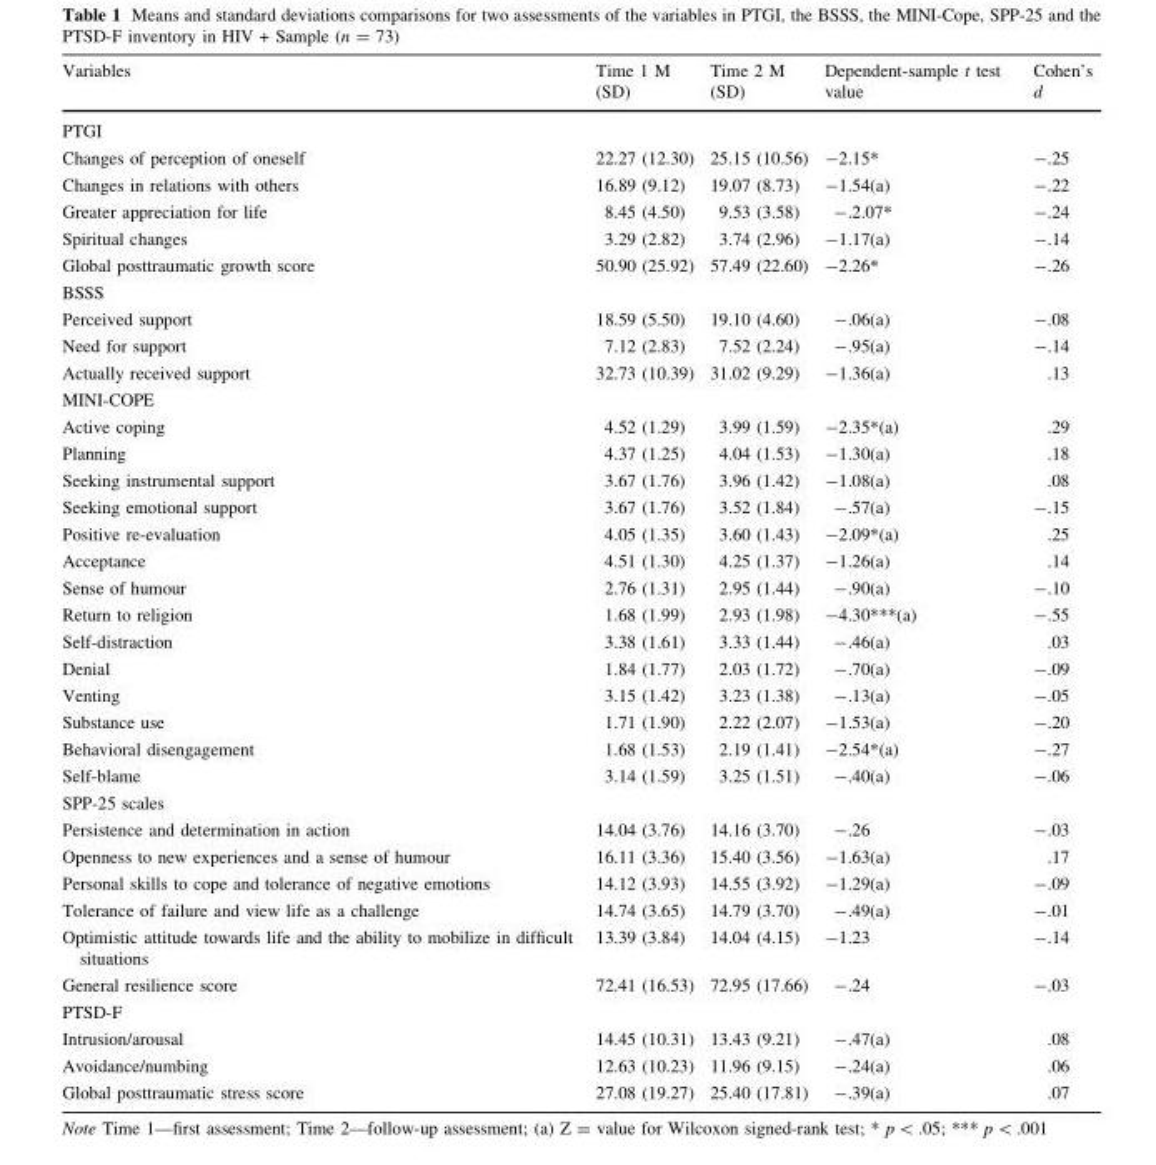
<table><thead><tr><td>Variables</td><td>Time 1 M (SD)</td><td>Time 2 M (SD)</td><td>Dependent-sample t test value</td><td>Cohen’s d</td></tr></thead><tbody><tr><td colspan="5">PTGI</td></tr><tr><td>Changes of perception of oneself</td><td>22.27 (12.30)</td><td>25.15 (10.56)</td><td>-2.15*</td><td>-.25</td></tr><tr><td>Changes in relations with others</td><td>16.89 (9.12)</td><td>19.07 (8.73)</td><td>-1.54(a)</td><td>-.22</td></tr><tr><td>Greater appreciation for life</td><td>8.45 (4.50)</td><td>9.53 (3.58)</td><td>-.2.07*</td><td>-.24</td></tr><tr><td>Spiritual changes</td><td>3.29 (2.82)</td><td>3.74 (2.96)</td><td>-1.17(a)</td><td>-.14</td></tr><tr><td>Global posttraumatic growth score</td><td>50.90 (25.92)</td><td>57.49 (22.60)</td><td>-2.26*</td><td>-.26</td></tr><tr><td colspan="5">BSSS</td></tr><tr><td>Perceived support</td><td>18.59 (5.50)</td><td>19.10 (4.60)</td><td>-.06(a)</td><td>-.08</td></tr><tr><td>Need for support</td><td>7.12 (2.83)</td><td>7.52 (2.24)</td><td>-.95(a)</td><td>-.14</td></tr><tr><td>Actually received support</td><td>32.73 (10.39)</td><td>31.02 (9.29)</td><td>-1.36(a)</td><td>.13</td></tr><tr><td colspan="5">MINI-COPE</td></tr><tr><td>Active coping</td><td>4.52 (1.29)</td><td>3.99 (1.59)</td><td>-2.35*(a)</td><td>.29</td></tr><tr><td>Planning</td><td>4.37 (1.25)</td><td>4.04 (1.53)</td><td>-1.30(a)</td><td>.18</td></tr><tr><td>Seeking instrumental support</td><td>3.67 (1.76)</td><td>3.96 (1.42)</td><td>-1.08(a)</td><td>.08</td></tr><tr><td>Seeking emotional support</td><td>3.67 (1.76)</td><td>3.52 (1.84)</td><td>-.57(a)</td><td>-.15</td></tr><tr><td>Positive re-evaluation</td><td>4.05 (1.35)</td><td>3.60 (1.43)</td><td>-2.09*(a)</td><td>.25</td></tr><tr><td>Acceptance</td><td>4.51 (1.30)</td><td>4.25 (1.37)</td><td>-1.26(a)</td><td>.14</td></tr><tr><td>Sense of humour</td><td>2.76 (1.31)</td><td>2.95 (1.44)</td><td>-.90(a)</td><td>-.10</td></tr><tr><td>Return to religion</td><td>1.68 (1.99)</td><td>2.93 (1.98)</td><td>-4.30***(a)</td><td>-.55</td></tr><tr><td>Self-distraction</td><td>3.38 (1.61)</td><td>3.33 (1.44)</td><td>-.46(a)</td><td>.03</td></tr><tr><td>Denial</td><td>1.84 (1.77)</td><td>2.03 (1.72)</td><td>-.70(a)</td><td>-.09</td></tr><tr><td>Venting</td><td>3.15 (1.42)</td><td>3.23 (1.38)</td><td>-.13(a)</td><td>-.05</td></tr><tr><td>Substance use</td><td>1.71 (1.90)</td><td>2.22 (2.07)</td><td>-1.53(a)</td><td>-.20</td></tr><tr><td>Behavioral disengagement</td><td>1.68 (1.53)</td><td>2.19 (1.41)</td><td>-2.54*(a)</td><td>-.27</td></tr><tr><td>Self-blame</td><td>3.14 (1.59)</td><td>3.25 (1.51)</td><td>-.40(a)</td><td>-.06</td></tr><tr><td colspan="5">SPP-25 scales</td></tr><tr><td>Persistence and determination in action</td><td>14.04 (3.76)</td><td>14.16 (3.70)</td><td>-.26</td><td>-.03</td></tr><tr><td>Openness to new experiences and a sense of humour</td><td>16.11 (3.36)</td><td>15.40 (3.56)</td><td>-1.63(a)</td><td>.17</td></tr><tr><td>Personal skills to cope and tolerance of negative emotions</td><td>14.12 (3.93)</td><td>14.55 (3.92)</td><td>-1.29(a)</td><td>-.09</td></tr><tr><td>Tolerance of failure and view life as a challenge</td><td>14.74 (3.65)</td><td>14.79 (3.70)</td><td>-.49(a)</td><td>-.01</td></tr><tr><td>Optimistic attitude towards life and the ability to mobilize in difficult situations</td><td>13.39 (3.84)</td><td>14.04 (4.15)</td><td>-1.23</td><td>-.14</td></tr><tr><td>General resilience score</td><td>72.41 (16.53)</td><td>72.95 (17.66)</td><td>-.24</td><td>-.03</td></tr><tr><td colspan="5">PTSD-F</td></tr><tr><td>Intrusion/arousal</td><td>14.45 (10.31)</td><td>13.43 (9.21)</td><td>-.47(a)</td><td>.08</td></tr><tr><td>Avoidance/numbing</td><td>12.63 (10.23)</td><td>11.96 (9.15)</td><td>-.24(a)</td><td>.06</td></tr><tr><td>Global posttraumatic stress score</td><td>27.08 (19.27)</td><td>25.40 (17.81)</td><td>-.39(a)</td><td>.07</td></tr></tbody></table>